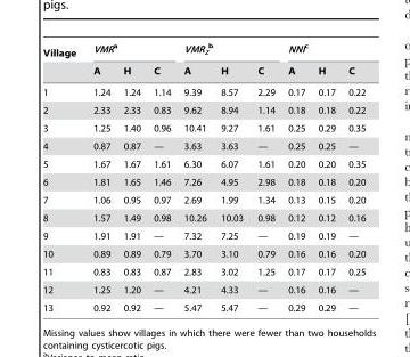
<table><thead><tr><td rowspan="2">Village</td><td colspan="3">VMRa</td><td colspan="3">VMR<sub>2</sub> b</td><td colspan="3">NNIc</td></tr><tr><td>A</td><td>H</td><td>C</td><td>A</td><td>H</td><td>C</td><td>A</td><td>H</td><td>C</td></tr></thead><tbody><tr><td>1</td><td>1.24</td><td>1.24</td><td>1.14</td><td>9.39</td><td>8.57</td><td>2.29</td><td>0.17</td><td>0.17</td><td>0.22</td></tr><tr><td>2</td><td>2.33</td><td>2.33</td><td>0.83</td><td>9.62</td><td>8.94</td><td>1.14</td><td>0.18</td><td>0.18</td><td>0.22</td></tr><tr><td>3</td><td>1.25</td><td>1.40</td><td>0.96</td><td>10.41</td><td>9.27</td><td>1.61</td><td>0.25</td><td>0.29</td><td>0.35</td></tr><tr><td>4</td><td>0.87</td><td>0.87</td><td>—</td><td>3.63</td><td>3.63</td><td>—</td><td>0.25</td><td>0.25</td><td>—</td></tr><tr><td>5</td><td>1.67</td><td>1.67</td><td>1.61</td><td>6.30</td><td>6.07</td><td>1.61</td><td>0.20</td><td>0.20</td><td>0.35</td></tr><tr><td>6</td><td>1.81</td><td>1.65</td><td>1.46</td><td>7.26</td><td>4.95</td><td>2.98</td><td>0.18</td><td>0.18</td><td>0.20</td></tr><tr><td>7</td><td>1.06</td><td>0.95</td><td>0.97</td><td>2.69</td><td>1.99</td><td>1.34</td><td>0.13</td><td>0.15</td><td>0.20</td></tr><tr><td>8</td><td>1.57</td><td>1.49</td><td>0.98</td><td>10.26</td><td>10.03</td><td>0.98</td><td>0.12</td><td>0.12</td><td>0.16</td></tr><tr><td>9</td><td>1.91</td><td>1.91</td><td>—</td><td>7.32</td><td>7.25</td><td>—</td><td>0.19</td><td>0.19</td><td>—</td></tr><tr><td>10</td><td>0.89</td><td>0.89</td><td>0.79</td><td>3.70</td><td>3.10</td><td>0.79</td><td>0.16</td><td>0.16</td><td>0.20</td></tr><tr><td>11</td><td>0.83</td><td>0.83</td><td>0.87</td><td>2.83</td><td>3.02</td><td>1.25</td><td>0.17</td><td>0.17</td><td>0.25</td></tr><tr><td>12</td><td>1.25</td><td>1.20</td><td>—</td><td>4.21</td><td>4.33</td><td>—</td><td>0.16</td><td>0.16</td><td>—</td></tr><tr><td>13</td><td>0.92</td><td>0.92</td><td>—</td><td>5.47</td><td>5.47</td><td>—</td><td>0.29</td><td>0.29</td><td>—</td></tr></tbody></table>